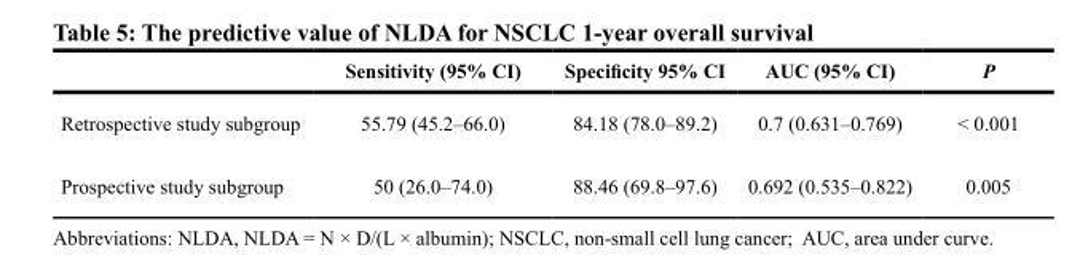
<table><thead><tr><td></td><td>Sensitivity (95% CI)</td><td>Specificity 95% CI</td><td>AUC (95% CI)</td><td>P</td></tr></thead><tbody><tr><td>Retrospective study subgroup</td><td>55.79 (45.2–66.0)</td><td>84.18 (78.0–89.2)</td><td>0.7 (0.631–0.769)</td><td>&lt; 0.001</td></tr><tr><td>Prospective study subgroup</td><td>50 (26.0–74.0)</td><td>88.46 (69.8–97.6)</td><td>0.692 (0.535–0.822)</td><td>0.005</td></tr></tbody></table>